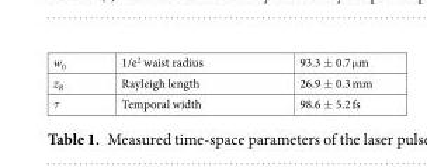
<table><tbody><tr><td>w<sub>0</sub></td><td>1/e<sup>2</sup> waist radius</td><td>93.3 ± 0.7 μm</td></tr><tr><td>z<sub>R</sub></td><td>Rayleigh length</td><td>26.9 ± 0.3 mm</td></tr><tr><td>τ</td><td>Temporal width</td><td>98.6 ± 5.2 fs</td></tr></tbody></table>